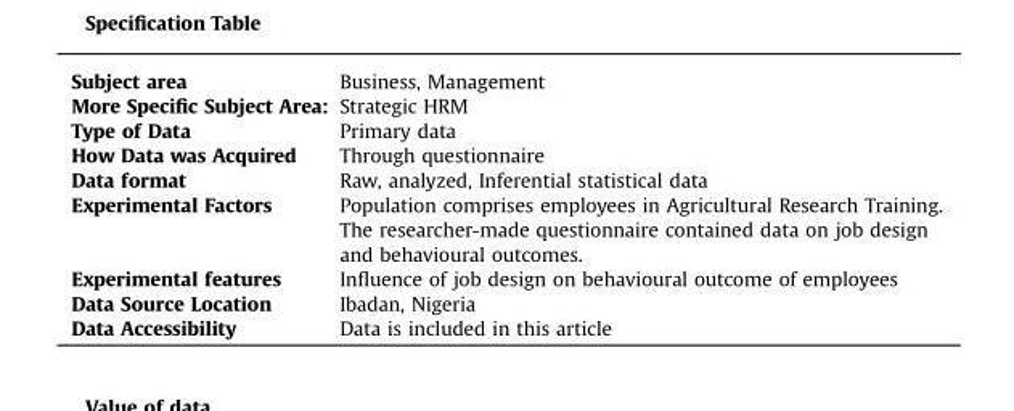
<table><tbody><tr><td>Subject area</td><td>Business, Management</td></tr><tr><td>More Specific Subject Area:</td><td>Strategic HRM</td></tr><tr><td>Type of Data</td><td>Primary data</td></tr><tr><td>How Data was Acquired</td><td>Through questionnaire</td></tr><tr><td>Data format</td><td>Raw, analyzed, Inferential statistical data</td></tr><tr><td>Experimental Factors</td><td>Population comprises employees in Agricultural Research Training. The researcher-made questionnaire contained data on job design and behavioural outcomes.</td></tr><tr><td>Experimental features</td><td>Influence of job design on behavioural outcome of employees</td></tr><tr><td>Data Source Location</td><td>Ibadan, Nigeria</td></tr><tr><td>Data Accessibility</td><td>Data is included in this article</td></tr></tbody></table>